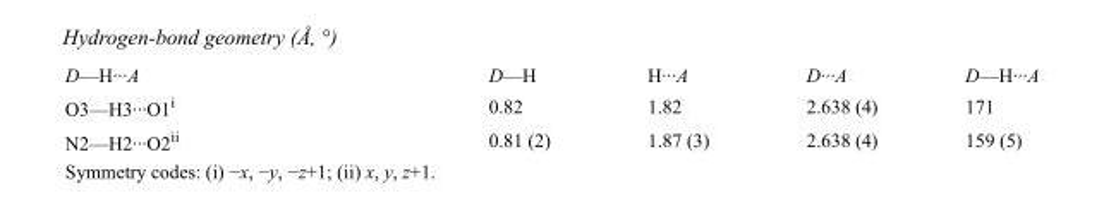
<table><tbody><tr><td>D—H···A</td><td>D—H</td><td>H···A</td><td>D···A</td><td>D—H···A</td></tr><tr><td>O3—H3···O1<sup>i</sup></td><td>0.82</td><td>1.82</td><td>2.638 (4)</td><td>171</td></tr><tr><td>N2—H2···O2<sup>ii</sup></td><td>0.81 (2)</td><td>1.87 (3)</td><td>2.638 (4)</td><td>159 (5)</td></tr></tbody></table>